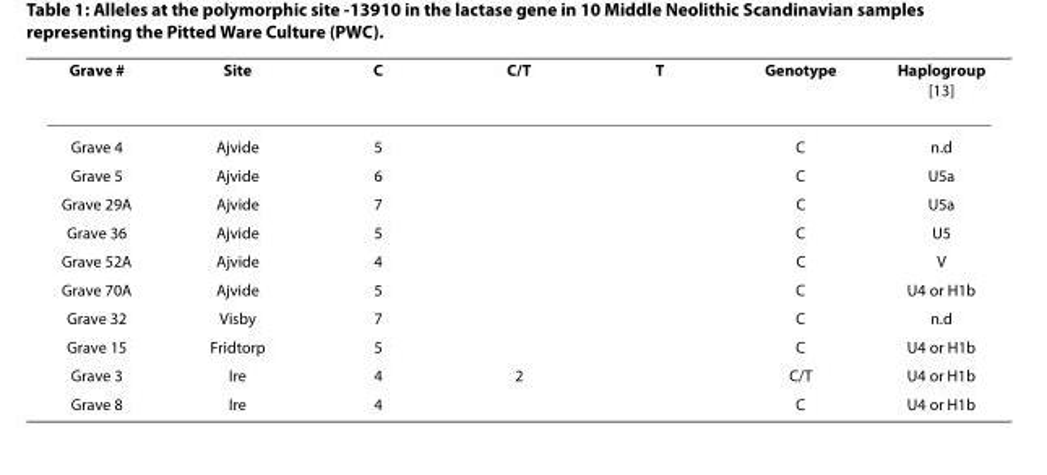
<table><thead><tr><td>Grave #</td><td>Site</td><td>C</td><td>C/T</td><td>T</td><td>Genotype</td><td>Haplogroup [13]</td></tr></thead><tbody><tr><td>Grave 4</td><td>Ajvide</td><td>5</td><td></td><td></td><td>C</td><td>n.d</td></tr><tr><td>Grave 5</td><td>Ajvide</td><td>6</td><td></td><td></td><td>C</td><td>U5a</td></tr><tr><td>Grave 29A</td><td>Ajvide</td><td>7</td><td></td><td></td><td>C</td><td>U5a</td></tr><tr><td>Grave 36</td><td>Ajvide</td><td>5</td><td></td><td></td><td>C</td><td>U5</td></tr><tr><td>Grave 52A</td><td>Ajvide</td><td>4</td><td></td><td></td><td>C</td><td>V</td></tr><tr><td>Grave 70A</td><td>Ajvide</td><td>5</td><td></td><td></td><td>C</td><td>U4 or H1b</td></tr><tr><td>Grave 32</td><td>Visby</td><td>7</td><td></td><td></td><td>C</td><td>n.d</td></tr><tr><td>Grave 15</td><td>Fridtorp</td><td>5</td><td></td><td></td><td>C</td><td>U4 or H1b</td></tr><tr><td>Grave 3</td><td>Ire</td><td>4</td><td>2</td><td></td><td>C/T</td><td>U4 or H1b</td></tr><tr><td>Grave 8</td><td>Ire</td><td>4</td><td></td><td></td><td>C</td><td>U4 or H1b</td></tr></tbody></table>